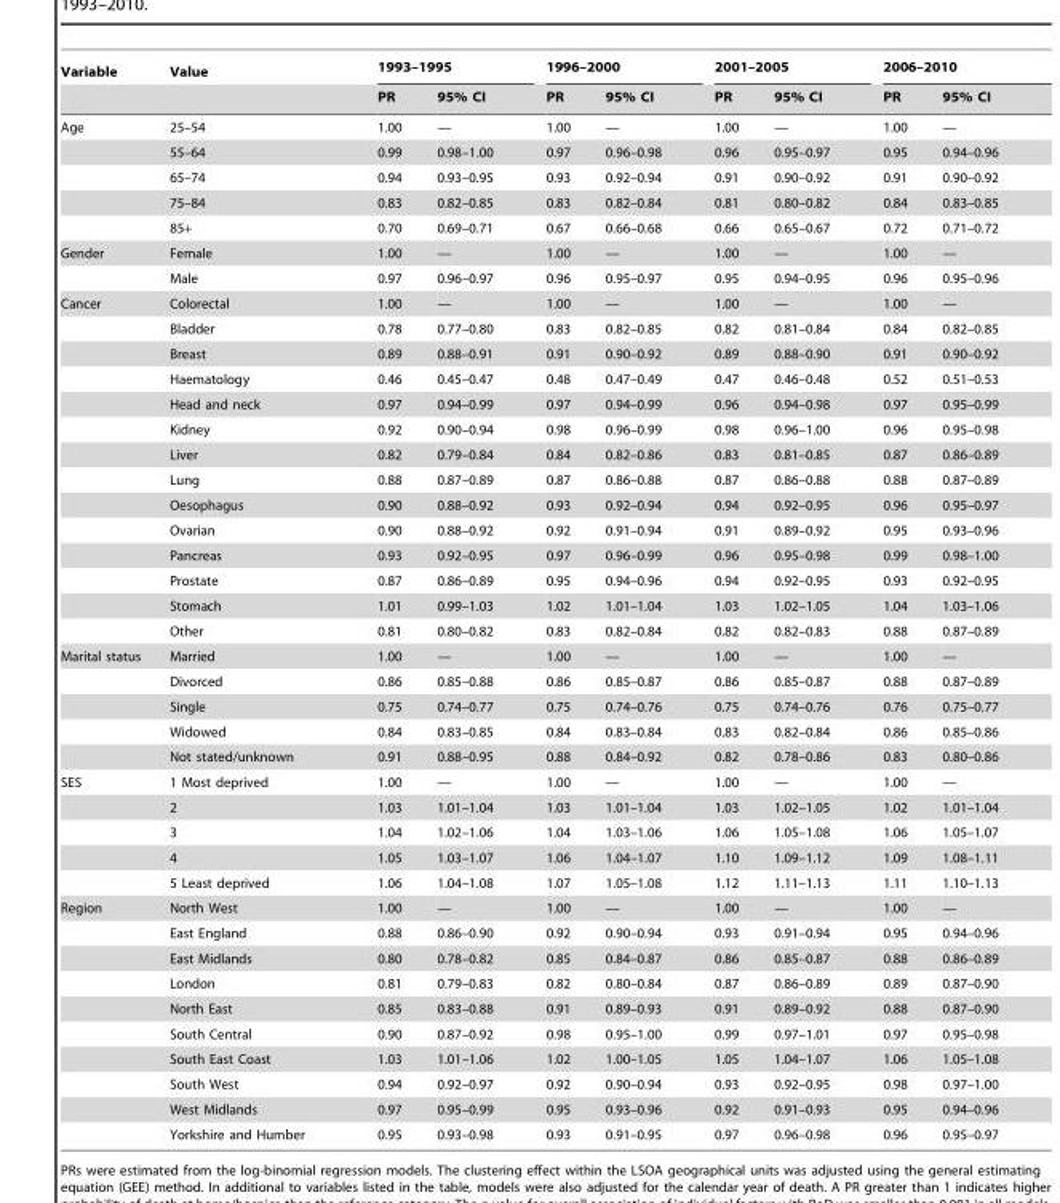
<table><thead><tr><td rowspan="2">Variable</td><td rowspan="2">Value</td><td colspan="2">1993–1995</td><td colspan="2">1996–2000</td><td colspan="2">2001–2005</td><td colspan="2">2006–2010</td></tr><tr><td>PR</td><td>95% CI</td><td>PR</td><td>95% CI</td><td>PR</td><td>95% CI</td><td>PR</td><td>95% CI</td></tr></thead><tbody><tr><td rowspan="5">Age</td><td>25–54</td><td>1.00</td><td>—</td><td>1.00</td><td>—</td><td>1.00</td><td>—</td><td>1.00</td><td>—</td></tr><tr><td>55–64</td><td>0.99</td><td>0.98–1.00</td><td>0.97</td><td>0.96–0.98</td><td>0.96</td><td>0.95–0.97</td><td>0.95</td><td>0.94–0.96</td></tr><tr><td>65–74</td><td>0.94</td><td>0.93–0.95</td><td>0.93</td><td>0.92–0.94</td><td>0.91</td><td>0.90–0.92</td><td>0.91</td><td>0.90–0.92</td></tr><tr><td>75–84</td><td>0.83</td><td>0.82–0.85</td><td>0.83</td><td>0.82–0.84</td><td>0.81</td><td>0.80–0.82</td><td>0.84</td><td>0.83–0.85</td></tr><tr><td>85+</td><td>0.70</td><td>0.69–0.71</td><td>0.67</td><td>0.66–0.68</td><td>0.66</td><td>0.65–0.67</td><td>0.72</td><td>0.71–0.72</td></tr><tr><td rowspan="2">Gender</td><td>Female</td><td>1.00</td><td>—</td><td>1.00</td><td>—</td><td>1.00</td><td>—</td><td>1.00</td><td>—</td></tr><tr><td>Male</td><td>0.97</td><td>0.96–0.97</td><td>0.96</td><td>0.95–0.97</td><td>0.95</td><td>0.94–0.95</td><td>0.96</td><td>0.95–0.96</td></tr><tr><td rowspan="14">Cancer</td><td>Colorectal</td><td>1.00</td><td>—</td><td>1.00</td><td>—</td><td>1.00</td><td>—</td><td>1.00</td><td>—</td></tr><tr><td>Bladder</td><td>0.78</td><td>0.77–0.80</td><td>0.83</td><td>0.82–0.85</td><td>0.82</td><td>0.81–0.84</td><td>0.84</td><td>0.82–0.85</td></tr><tr><td>Breast</td><td>0.89</td><td>0.88–0.91</td><td>0.91</td><td>0.90–0.92</td><td>0.89</td><td>0.88–0.90</td><td>0.91</td><td>0.90–0.92</td></tr><tr><td>Haematology</td><td>0.46</td><td>0.45–0.47</td><td>0.48</td><td>0.47–0.49</td><td>0.47</td><td>0.46–0.48</td><td>0.52</td><td>0.51–0.53</td></tr><tr><td>Head and neck</td><td>0.97</td><td>0.94–0.99</td><td>0.97</td><td>0.94–0.99</td><td>0.96</td><td>0.94–0.98</td><td>0.97</td><td>0.95–0.99</td></tr><tr><td>Kidney</td><td>0.92</td><td>0.90–0.94</td><td>0.98</td><td>0.96–0.99</td><td>0.98</td><td>0.96–1.00</td><td>0.96</td><td>0.95–0.98</td></tr><tr><td>Liver</td><td>0.82</td><td>0.79–0.84</td><td>0.84</td><td>0.82–0.86</td><td>0.83</td><td>0.81–0.85</td><td>0.87</td><td>0.86–0.89</td></tr><tr><td>Lung</td><td>0.88</td><td>0.87–0.89</td><td>0.87</td><td>0.86–0.88</td><td>0.87</td><td>0.86–0.88</td><td>0.88</td><td>0.87–0.89</td></tr><tr><td>Oesophagus</td><td>0.90</td><td>0.88–0.92</td><td>0.93</td><td>0.92–0.94</td><td>0.94</td><td>0.92–0.95</td><td>0.96</td><td>0.95–0.97</td></tr><tr><td>Ovarian</td><td>0.90</td><td>0.88–0.92</td><td>0.92</td><td>0.91–0.94</td><td>0.91</td><td>0.89–0.92</td><td>0.95</td><td>0.93–0.96</td></tr><tr><td>Pancreas</td><td>0.93</td><td>0.92–0.95</td><td>0.97</td><td>0.96–0.99</td><td>0.96</td><td>0.95–0.98</td><td>0.99</td><td>0.98–1.00</td></tr><tr><td>Prostate</td><td>0.87</td><td>0.86–0.89</td><td>0.95</td><td>0.94–0.96</td><td>0.94</td><td>0.92–0.95</td><td>0.93</td><td>0.92–0.95</td></tr><tr><td>Stomach</td><td>1.01</td><td>0.99–1.03</td><td>1.02</td><td>1.01–1.04</td><td>1.03</td><td>1.02–1.05</td><td>1.04</td><td>1.03–1.06</td></tr><tr><td>Other</td><td>0.81</td><td>0.80–0.82</td><td>0.83</td><td>0.82–0.84</td><td>0.82</td><td>0.82–0.83</td><td>0.88</td><td>0.87–0.89</td></tr><tr><td rowspan="5">Marital status</td><td>Married</td><td>1.00</td><td>—</td><td>1.00</td><td>—</td><td>1.00</td><td>—</td><td>1.00</td><td>—</td></tr><tr><td>Divorced</td><td>0.86</td><td>0.85–0.88</td><td>0.86</td><td>0.85–0.87</td><td>0.86</td><td>0.85–0.87</td><td>0.88</td><td>0.87–0.89</td></tr><tr><td>Single</td><td>0.75</td><td>0.74–0.77</td><td>0.75</td><td>0.74–0.76</td><td>0.75</td><td>0.74–0.76</td><td>0.76</td><td>0.75–0.77</td></tr><tr><td>Widowed</td><td>0.84</td><td>0.83–0.85</td><td>0.84</td><td>0.83–0.84</td><td>0.83</td><td>0.82–0.84</td><td>0.86</td><td>0.85–0.86</td></tr><tr><td>Not stated/unknown</td><td>0.91</td><td>0.88–0.95</td><td>0.88</td><td>0.84–0.92</td><td>0.82</td><td>0.78–0.86</td><td>0.83</td><td>0.80–0.86</td></tr><tr><td rowspan="5">SES</td><td>1 Most deprived</td><td>1.00</td><td>—</td><td>1.00</td><td>—</td><td>1.00</td><td>—</td><td>1.00</td><td>—</td></tr><tr><td>2</td><td>1.03</td><td>1.01–1.04</td><td>1.03</td><td>1.01–1.04</td><td>1.03</td><td>1.02–1.05</td><td>1.02</td><td>1.01–1.04</td></tr><tr><td>3</td><td>1.04</td><td>1.02–1.06</td><td>1.04</td><td>1.03–1.06</td><td>1.06</td><td>1.05–1.08</td><td>1.06</td><td>1.05–1.07</td></tr><tr><td>4</td><td>1.05</td><td>1.03–1.07</td><td>1.06</td><td>1.04–1.07</td><td>1.10</td><td>1.09–1.12</td><td>1.09</td><td>1.08–1.11</td></tr><tr><td>5 Least deprived</td><td>1.06</td><td>1.04–1.08</td><td>1.07</td><td>1.05–1.08</td><td>1.12</td><td>1.11–1.13</td><td>1.11</td><td>1.10–1.13</td></tr><tr><td rowspan="10">Region</td><td>North West</td><td>1.00</td><td>—</td><td>1.00</td><td>—</td><td>1.00</td><td>—</td><td>1.00</td><td>—</td></tr><tr><td>East England</td><td>0.88</td><td>0.86–0.90</td><td>0.92</td><td>0.90–0.94</td><td>0.93</td><td>0.91–0.94</td><td>0.95</td><td>0.94–0.96</td></tr><tr><td>East Midlands</td><td>0.80</td><td>0.78–0.82</td><td>0.85</td><td>0.84–0.87</td><td>0.86</td><td>0.85–0.87</td><td>0.88</td><td>0.86–0.89</td></tr><tr><td>London</td><td>0.81</td><td>0.79–0.83</td><td>0.82</td><td>0.80–0.84</td><td>0.87</td><td>0.86–0.89</td><td>0.89</td><td>0.87–0.90</td></tr><tr><td>North East</td><td>0.85</td><td>0.83–0.88</td><td>0.91</td><td>0.89–0.93</td><td>0.91</td><td>0.89–0.92</td><td>0.88</td><td>0.87–0.90</td></tr><tr><td>South Central</td><td>0.90</td><td>0.87–0.92</td><td>0.98</td><td>0.95–1.00</td><td>0.99</td><td>0.97–1.01</td><td>0.97</td><td>0.95–0.98</td></tr><tr><td>South East Coast</td><td>1.03</td><td>1.01–1.06</td><td>1.02</td><td>1.00–1.05</td><td>1.05</td><td>1.04–1.07</td><td>1.06</td><td>1.05–1.08</td></tr><tr><td>South West</td><td>0.94</td><td>0.92–0.97</td><td>0.92</td><td>0.90–0.94</td><td>0.93</td><td>0.92–0.95</td><td>0.98</td><td>0.97–1.00</td></tr><tr><td>West Midlands</td><td>0.97</td><td>0.95–0.99</td><td>0.95</td><td>0.93–0.96</td><td>0.92</td><td>0.91–0.93</td><td>0.95</td><td>0.94–0.96</td></tr><tr><td>Yorkshire and Humber</td><td>0.95</td><td>0.93–0.98</td><td>0.93</td><td>0.91–0.95</td><td>0.97</td><td>0.96–0.98</td><td>0.96</td><td>0.95–0.97</td></tr></tbody></table>